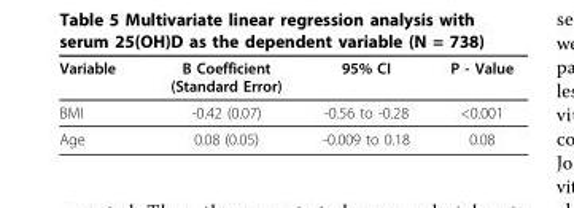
<table><thead><tr><td>Variable</td><td>B Coefficient (Standard Error)</td><td>95% CI</td><td>P - Value</td></tr></thead><tbody><tr><td>BMI</td><td>-0.42 (0.07)</td><td>-0.56 to -0.28</td><td>&lt;0.001</td></tr><tr><td>Age</td><td>0.08 (0.05)</td><td>-0.009 to 0.18</td><td>0.08</td></tr></tbody></table>